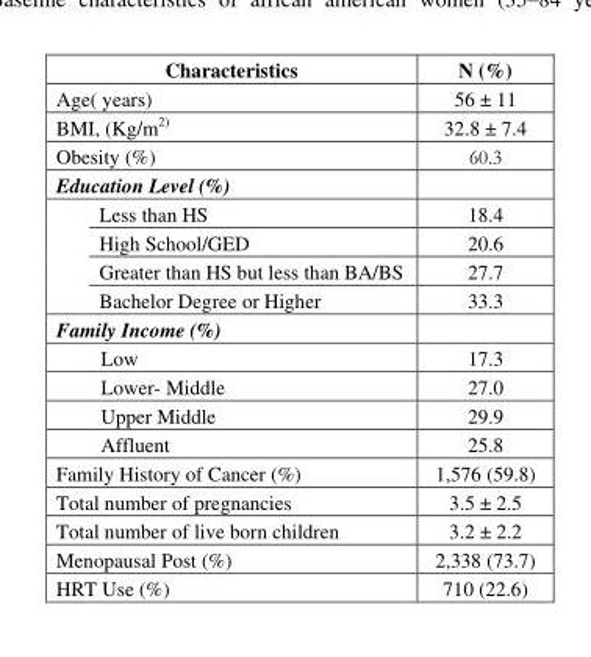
<table><thead><tr><td>Characteristics</td><td>N (%)</td></tr></thead><tbody><tr><td>Age( years)</td><td>56 ± 11</td></tr><tr><td>BMI, (Kg/m<sup>2</sup>)</td><td>32.8 ± 7.4</td></tr><tr><td>Obesity (%)</td><td>60.3</td></tr><tr><td colspan="2">Education Level (%)</td></tr><tr><td>Less than HS</td><td>18.4</td></tr><tr><td>High School/GED</td><td>20.6</td></tr><tr><td>Greater than HS but less than BA/BS</td><td>27.7</td></tr><tr><td>Bachelor Degree or Higher</td><td>33.3</td></tr><tr><td colspan="2">Family Income (%)</td></tr><tr><td>Low</td><td>17.3</td></tr><tr><td>Lower- Middle</td><td>27.0</td></tr><tr><td>Upper Middle</td><td>29.9</td></tr><tr><td>Affluent</td><td>25.8</td></tr><tr><td>Family History of Cancer (%)</td><td>1,576 (59.8)</td></tr><tr><td>Total number of pregnancies</td><td>3.5 ± 2.5</td></tr><tr><td>Total number of live born children</td><td>3.2 ± 2.2</td></tr><tr><td>Menopausal Post (%)</td><td>2,338 (73.7)</td></tr><tr><td>HRT Use (%)</td><td>710 (22.6)</td></tr></tbody></table>